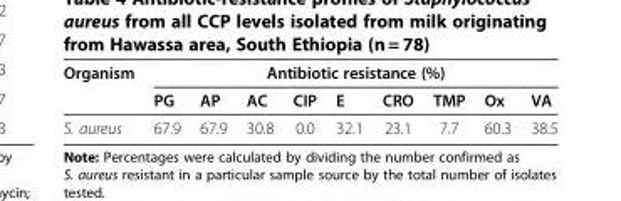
<table><thead><tr><td rowspan="2">Organism</td><td colspan="9">Antibiotic resistance (%)</td></tr><tr><td>PG</td><td>AP</td><td>AC</td><td>CIP</td><td>E</td><td>CRO</td><td>TMP</td><td>Ox</td><td>VA</td></tr></thead><tbody><tr><td>S. aureus</td><td>67.9</td><td>67.9</td><td>30.8</td><td>0.0</td><td>32.1</td><td>23.1</td><td>7.7</td><td>60.3</td><td>38.5</td></tr></tbody></table>